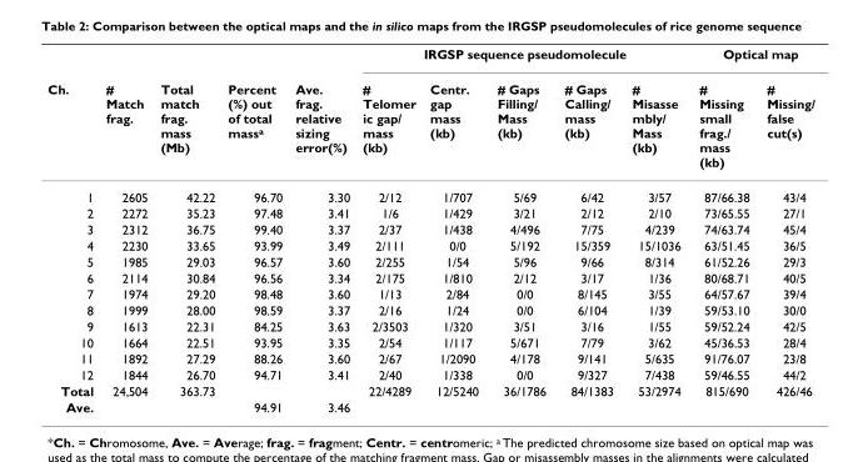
<table><thead><tr><td rowspan="2">Ch.</td><td rowspan="2"># Match frag.</td><td rowspan="2">Total match frag. mass (Mb)</td><td rowspan="2">Percent (%) out of total mass<sup>a</sup></td><td rowspan="2">Ave. frag. relative sizing error(%)</td><td colspan="5">IRGSP sequence pseudomolecule</td><td colspan="2">Optical map</td></tr><tr><td># Telomer ic gap/ mass (kb)</td><td>Centr. gap mass (kb)</td><td># Gaps Filling/ Mass (kb)</td><td># Gaps Calling/ mass (kb)</td><td># Misasse mbly/ Mass (kb)</td><td># Missing small frag./ mass (kb)</td><td># Missing/ false cut(s)</td></tr></thead><tbody><tr><td>1</td><td>2605</td><td>42.22</td><td>96.70</td><td>3.30</td><td>2/12</td><td>1/707</td><td>5/69</td><td>6/42</td><td>3/57</td><td>87/66.38</td><td>43/4</td></tr><tr><td>2</td><td>2272</td><td>35.23</td><td>97.48</td><td>3.41</td><td>1/6</td><td>1/429</td><td>3/21</td><td>2/12</td><td>2/10</td><td>73/65.55</td><td>27/1</td></tr><tr><td>3</td><td>2312</td><td>36.75</td><td>99.40</td><td>3.37</td><td>2/37</td><td>1/438</td><td>4/496</td><td>7/75</td><td>4/239</td><td>74/63.74</td><td>45/4</td></tr><tr><td>4</td><td>2230</td><td>33.65</td><td>93.99</td><td>3.49</td><td>2/111</td><td>0/0</td><td>5/192</td><td>15/359</td><td>15/1036</td><td>63/51.45</td><td>36/5</td></tr><tr><td>5</td><td>1985</td><td>29.03</td><td>96.57</td><td>3.60</td><td>2/255</td><td>1/54</td><td>5/96</td><td>9/66</td><td>8/314</td><td>61/52.26</td><td>29/3</td></tr><tr><td>6</td><td>2114</td><td>30.84</td><td>96.56</td><td>3.34</td><td>2/175</td><td>1/810</td><td>2/12</td><td>3/17</td><td>1/36</td><td>80/68.71</td><td>40/5</td></tr><tr><td>7</td><td>1974</td><td>29.20</td><td>98.48</td><td>3.60</td><td>1/13</td><td>2/84</td><td>0/0</td><td>8/145</td><td>3/55</td><td>64/57.67</td><td>39/4</td></tr><tr><td>8</td><td>1999</td><td>28.00</td><td>98.59</td><td>3.37</td><td>2/16</td><td>1/24</td><td>0/0</td><td>6/104</td><td>1/39</td><td>59/53.10</td><td>30/0</td></tr><tr><td>9</td><td>1613</td><td>22.31</td><td>84.25</td><td>3.63</td><td>2/3503</td><td>1/320</td><td>3/51</td><td>3/16</td><td>1/55</td><td>59/52.24</td><td>42/5</td></tr><tr><td>10</td><td>1664</td><td>22.51</td><td>93.95</td><td>3.35</td><td>2/54</td><td>1/117</td><td>5/671</td><td>7/79</td><td>3/62</td><td>45/36.53</td><td>28/4</td></tr><tr><td>11</td><td>1892</td><td>27.29</td><td>88.26</td><td>3.60</td><td>2/67</td><td>1/2090</td><td>4/178</td><td>9/141</td><td>5/635</td><td>91/76.07</td><td>23/8</td></tr><tr><td>12</td><td>1844</td><td>26.70</td><td>94.71</td><td>3.41</td><td>2/40</td><td>1/338</td><td>0/0</td><td>9/327</td><td>7/438</td><td>59/46.55</td><td>44/2</td></tr><tr><td>Total</td><td>24,504</td><td>363.73</td><td></td><td></td><td>22/4289</td><td>12/5240</td><td>36/1786</td><td>84/1383</td><td>53/2974</td><td>815/690</td><td>426/46</td></tr><tr><td>Ave.</td><td></td><td></td><td>94.91</td><td>3.46</td><td></td><td></td><td></td><td></td><td></td><td></td><td></td></tr></tbody></table>